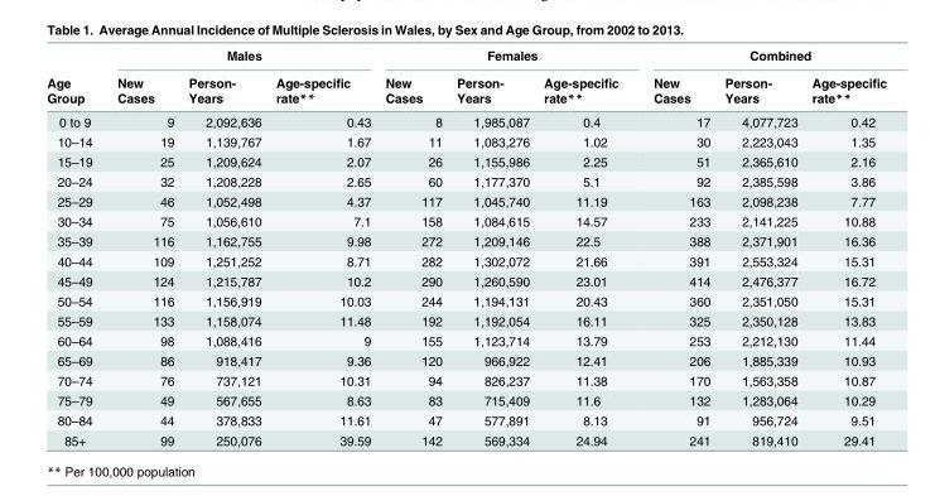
<table><thead><tr><td rowspan="2">Age Group</td><td colspan="3">Males</td><td colspan="3">Females</td><td colspan="3">Combined</td></tr><tr><td>New Cases</td><td>Person- Years</td><td>Age-specific rate**</td><td>New Cases</td><td>Person- Years</td><td>Age-specific rate**</td><td>New Cases</td><td>Person- Years</td><td>Age-specific rate**</td></tr></thead><tbody><tr><td>0 to 9</td><td>9</td><td>2,092,636</td><td>0.43</td><td>8</td><td>1,985,087</td><td>0.4</td><td>17</td><td>4,077,723</td><td>0.42</td></tr><tr><td>10–14</td><td>19</td><td>1,139,767</td><td>1.67</td><td>11</td><td>1,083,276</td><td>1.02</td><td>30</td><td>2,223,043</td><td>1.35</td></tr><tr><td>15–19</td><td>25</td><td>1,209,624</td><td>2.07</td><td>26</td><td>1,155,986</td><td>2.25</td><td>51</td><td>2,365,610</td><td>2.16</td></tr><tr><td>20–24</td><td>32</td><td>1,208,228</td><td>2.65</td><td>60</td><td>1,177,370</td><td>5.1</td><td>92</td><td>2,385,598</td><td>3.86</td></tr><tr><td>25–29</td><td>46</td><td>1,052,498</td><td>4.37</td><td>117</td><td>1,045,740</td><td>11.19</td><td>163</td><td>2,098,238</td><td>7.77</td></tr><tr><td>30–34</td><td>75</td><td>1,056,610</td><td>7.1</td><td>158</td><td>1,084,615</td><td>14.57</td><td>233</td><td>2,141,225</td><td>10.88</td></tr><tr><td>35–39</td><td>116</td><td>1,162,755</td><td>9.98</td><td>272</td><td>1,209,146</td><td>22.5</td><td>388</td><td>2,371,901</td><td>16.36</td></tr><tr><td>40–44</td><td>109</td><td>1,251,252</td><td>8.71</td><td>282</td><td>1,302,072</td><td>21.66</td><td>391</td><td>2,553,324</td><td>15.31</td></tr><tr><td>45–49</td><td>124</td><td>1,215,787</td><td>10.2</td><td>290</td><td>1,260,590</td><td>23.01</td><td>414</td><td>2,476,377</td><td>16.72</td></tr><tr><td>50–54</td><td>116</td><td>1,156,919</td><td>10.03</td><td>244</td><td>1,194,131</td><td>20.43</td><td>360</td><td>2,351,050</td><td>15.31</td></tr><tr><td>55–59</td><td>133</td><td>1,158,074</td><td>11.48</td><td>192</td><td>1,192,054</td><td>16.11</td><td>325</td><td>2,350,128</td><td>13.83</td></tr><tr><td>60–64</td><td>98</td><td>1,088,416</td><td>9</td><td>155</td><td>1,123,714</td><td>13.79</td><td>253</td><td>2,212,130</td><td>11.44</td></tr><tr><td>65–69</td><td>86</td><td>918,417</td><td>9.36</td><td>120</td><td>966,922</td><td>12.41</td><td>206</td><td>1,885,339</td><td>10.93</td></tr><tr><td>70–74</td><td>76</td><td>737,121</td><td>10.31</td><td>94</td><td>826,237</td><td>11.38</td><td>170</td><td>1,563,358</td><td>10.87</td></tr><tr><td>75–79</td><td>49</td><td>567,655</td><td>8.63</td><td>83</td><td>715,409</td><td>11.6</td><td>132</td><td>1,283,064</td><td>10.29</td></tr><tr><td>80–84</td><td>44</td><td>378,833</td><td>11.61</td><td>47</td><td>577,891</td><td>8.13</td><td>91</td><td>956,724</td><td>9.51</td></tr><tr><td>85+</td><td>99</td><td>250,076</td><td>39.59</td><td>142</td><td>569,334</td><td>24.94</td><td>241</td><td>819,410</td><td>29.41</td></tr></tbody></table>